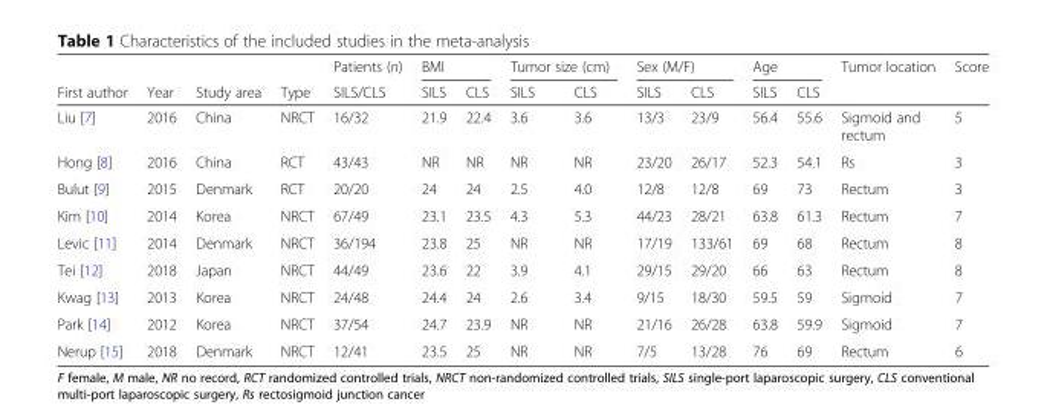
<table><thead><tr><td rowspan="2">First author</td><td rowspan="2">Year</td><td rowspan="2">Study area</td><td rowspan="2">Type</td><td rowspan="2">Patients (n) SILS/CLS</td><td colspan="2">BMI</td><td colspan="2">Tumor size (cm)</td><td colspan="2">Sex (M/F)</td><td colspan="2">Age</td><td rowspan="2">Tumor location</td><td rowspan="2">Score</td></tr><tr><td>SILS</td><td>CLS</td><td>SILS</td><td>CLS</td><td>SILS</td><td>CLS</td><td>SILS</td><td>CLS</td></tr></thead><tbody><tr><td>Liu [7]</td><td>2016</td><td>China</td><td>NRCT</td><td>16/32</td><td>21.9</td><td>22.4</td><td>3.6</td><td>3.6</td><td>13/3</td><td>23/9</td><td>56.4</td><td>55.6</td><td>Sigmoid and rectum</td><td>5</td></tr><tr><td>Hong [8]</td><td>2016</td><td>China</td><td>RCT</td><td>43/43</td><td>NR</td><td>NR</td><td>NR</td><td>NR</td><td>23/20</td><td>26/17</td><td>52.3</td><td>54.1</td><td>Rs</td><td>3</td></tr><tr><td>Bulut [9]</td><td>2015</td><td>Denmark</td><td>RCT</td><td>20/20</td><td>24</td><td>24</td><td>2.5</td><td>4.0</td><td>12/8</td><td>12/8</td><td>69</td><td>73</td><td>Rectum</td><td>3</td></tr><tr><td>Kim [10]</td><td>2014</td><td>Korea</td><td>NRCT</td><td>67/49</td><td>23.1</td><td>23.5</td><td>4.3</td><td>5.3</td><td>44/23</td><td>28/21</td><td>63.8</td><td>61.3</td><td>Rectum</td><td>7</td></tr><tr><td>Levic [11]</td><td>2014</td><td>Denmark</td><td>NRCT</td><td>36/194</td><td>23.8</td><td>25</td><td>NR</td><td>NR</td><td>17/19</td><td>133/61</td><td>69</td><td>68</td><td>Rectum</td><td>8</td></tr><tr><td>Tei [12]</td><td>2018</td><td>Japan</td><td>NRCT</td><td>44/49</td><td>23.6</td><td>22</td><td>3.9</td><td>4.1</td><td>29/15</td><td>29/20</td><td>66</td><td>63</td><td>Rectum</td><td>8</td></tr><tr><td>Kwag [13]</td><td>2013</td><td>Korea</td><td>NRCT</td><td>24/48</td><td>24.4</td><td>24</td><td>2.6</td><td>3.4</td><td>9/15</td><td>18/30</td><td>59.5</td><td>59</td><td>Sigmoid</td><td>7</td></tr><tr><td>Park [14]</td><td>2012</td><td>Korea</td><td>NRCT</td><td>37/54</td><td>24.7</td><td>23.9</td><td>NR</td><td>NR</td><td>21/16</td><td>26/28</td><td>63.8</td><td>59.9</td><td>Sigmoid</td><td>7</td></tr><tr><td>Nerup [15]</td><td>2018</td><td>Denmark</td><td>NRCT</td><td>12/41</td><td>23.5</td><td>25</td><td>NR</td><td>NR</td><td>7/5</td><td>13/28</td><td>76</td><td>69</td><td>Rectum</td><td>6</td></tr></tbody></table>